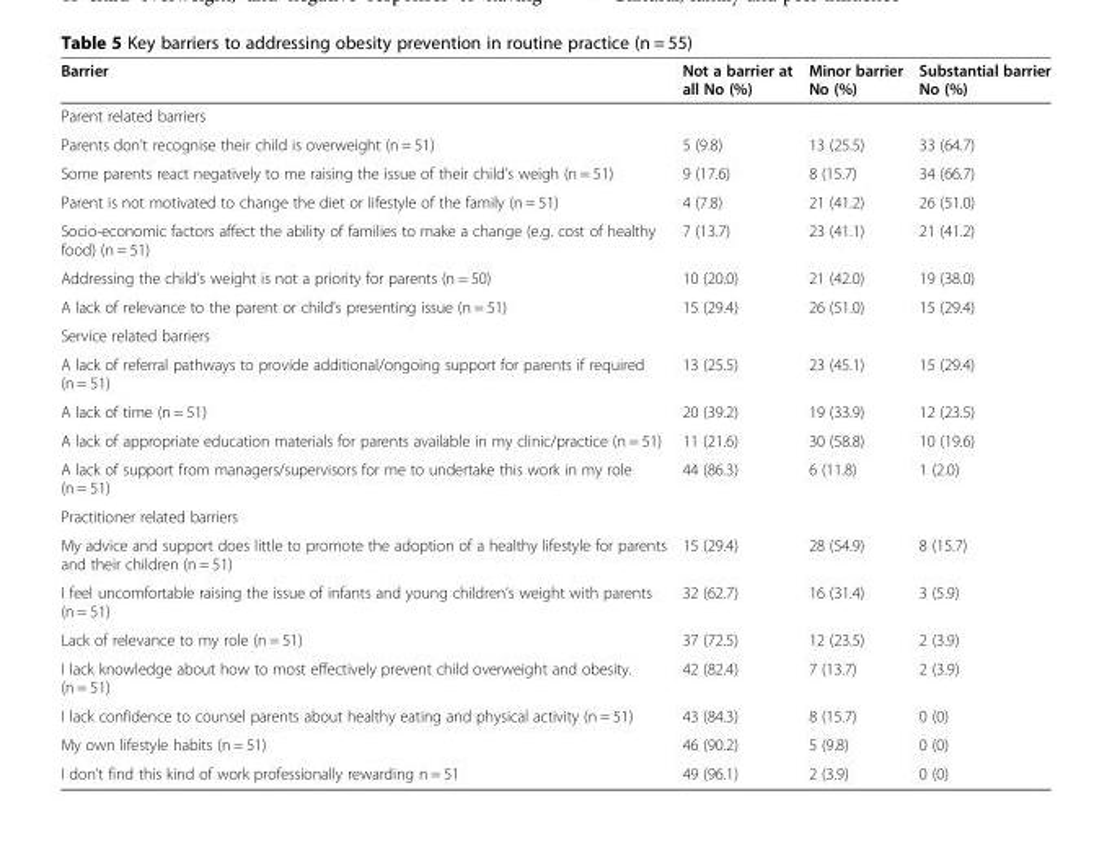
<table><thead><tr><td>Barrier</td><td>Not a barrier at all No (%)</td><td>Minor barrier No (%)</td><td>Substantial barrier No (%)</td></tr></thead><tbody><tr><td colspan="4">Parent related barriers</td></tr><tr><td>Parents don’t recognise their child is overweight (n = 51)</td><td>5 (9.8)</td><td>13 (25.5)</td><td>33 (64.7)</td></tr><tr><td>Some parents react negatively to me raising the issue of their child’s weigh (n = 51)</td><td>9 (17.6)</td><td>8 (15.7)</td><td>34 (66.7)</td></tr><tr><td>Parent is not motivated to change the diet or lifestyle of the family (n = 51)</td><td>4 (7.8)</td><td>21 (41.2)</td><td>26 (51.0)</td></tr><tr><td>Socio-economic factors affect the ability of families to make a change (e.g. cost of healthy food) (n = 51)</td><td>7 (13.7)</td><td>23 (41.1)</td><td>21 (41.2)</td></tr><tr><td>Addressing the child’s weight is not a priority for parents (n = 50)</td><td>10 (20.0)</td><td>21 (42.0)</td><td>19 (38.0)</td></tr><tr><td>A lack of relevance to the parent or child’s presenting issue (n = 51)</td><td>15 (29.4)</td><td>26 (51.0)</td><td>15 (29.4)</td></tr><tr><td colspan="4">Service related barriers</td></tr><tr><td>A lack of referral pathways to provide additional/ongoing support for parents if required (n = 51)</td><td>13 (25.5)</td><td>23 (45.1)</td><td>15 (29.4)</td></tr><tr><td>A lack of time (n = 51)</td><td>20 (39.2)</td><td>19 (33.9)</td><td>12 (23.5)</td></tr><tr><td>A lack of appropriate education materials for parents available in my clinic/practice (n = 51)</td><td>11 (21.6)</td><td>30 (58.8)</td><td>10 (19.6)</td></tr><tr><td>A lack of support from managers/supervisors for me to undertake this work in my role (n = 51)</td><td>44 (86.3)</td><td>6 (11.8)</td><td>1 (2.0)</td></tr><tr><td colspan="4">Practitioner related barriers</td></tr><tr><td>My advice and support does little to promote the adoption of a healthy lifestyle for parents and their children (n = 51)</td><td>15 (29.4)</td><td>28 (54.9)</td><td>8 (15.7)</td></tr><tr><td>I feel uncomfortable raising the issue of infants and young children’s weight with parents (n = 51)</td><td>32 (62.7)</td><td>16 (31.4)</td><td>3 (5.9)</td></tr><tr><td>Lack of relevance to my role (n = 51)</td><td>37 (72.5)</td><td>12 (23.5)</td><td>2 (3.9)</td></tr><tr><td>I lack knowledge about how to most effectively prevent child overweight and obesity. (n = 51)</td><td>42 (82.4)</td><td>7 (13.7)</td><td>2 (3.9)</td></tr><tr><td>I lack confidence to counsel parents about healthy eating and physical activity (n = 51)</td><td>43 (84.3)</td><td>8 (15.7)</td><td>0 (0)</td></tr><tr><td>My own lifestyle habits (n = 51)</td><td>46 (90.2)</td><td>5 (9.8)</td><td>0 (0)</td></tr><tr><td>I don’t find this kind of work professionally rewarding n = 51</td><td>49 (96.1)</td><td>2 (3.9)</td><td>0 (0)</td></tr></tbody></table>